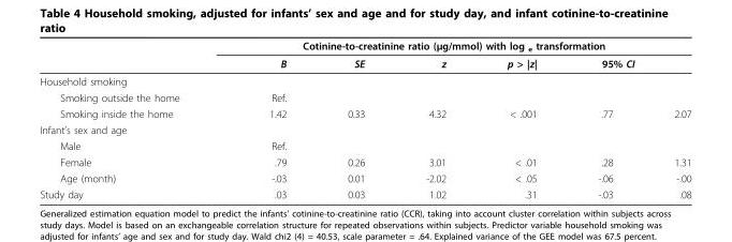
<table><thead><tr><td rowspan="3">Household smoking</td><td colspan="6">Cotinine-to-creatinine ratio (μg/mmol) with log <sub>e</sub> transformation</td></tr><tr><td rowspan="2">B</td><td rowspan="2">SE</td><td rowspan="2">z</td><td rowspan="2">p &gt; |z|</td><td colspan="2">95% CI</td></tr><tr><td></td><td></td></tr></thead><tbody><tr><td>Smoking outside the home</td><td>Ref.</td><td></td><td></td><td></td><td></td><td></td></tr><tr><td>Smoking inside the home</td><td>1.42</td><td>0.33</td><td>4.32</td><td>&lt; .001</td><td>.77</td><td>2.07</td></tr><tr><td colspan="7">Infant’s sex and age</td></tr><tr><td>Male</td><td>Ref.</td><td></td><td></td><td></td><td></td><td></td></tr><tr><td>Female</td><td>.79</td><td>0.26</td><td>3.01</td><td>&lt; .01</td><td>.28</td><td>1.31</td></tr><tr><td>Age (month)</td><td>-.03</td><td>0.01</td><td>-2.02</td><td>&lt; .05</td><td>-.06</td><td>-.00</td></tr><tr><td>Study day</td><td>.03</td><td>0.03</td><td>1.02</td><td>.31</td><td>-.03</td><td>.08</td></tr></tbody></table>